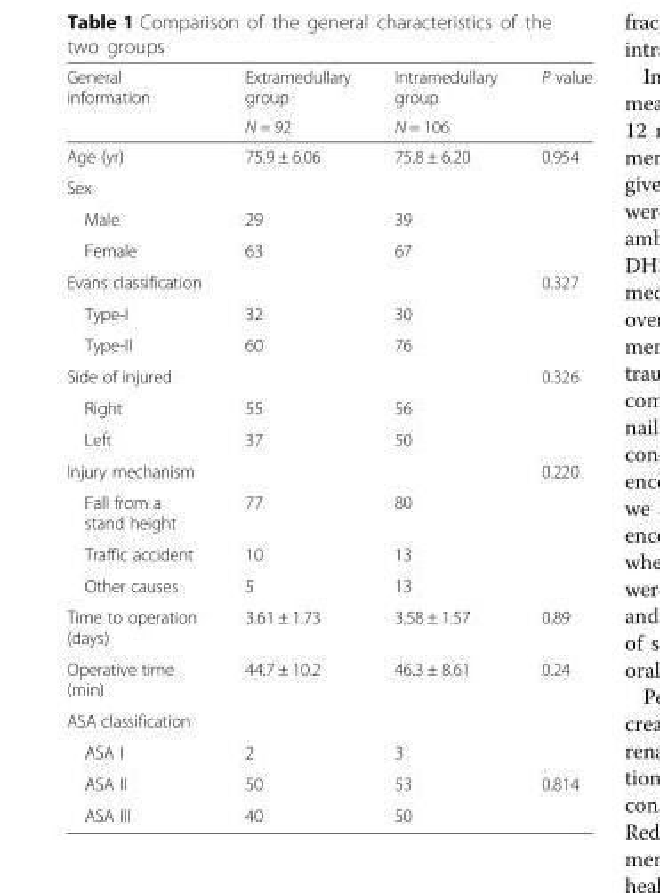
<table><thead><tr><td rowspan="2">General information</td><td rowspan="2">Extramedullary group N = 92</td><td rowspan="2">Intramedullary group N = 106</td><td rowspan="2">P value</td></tr><tr></tr></thead><tbody><tr><td>Age (yr)</td><td>75.9 ± 6.06</td><td>75.8 ± 6.20</td><td>0.954</td></tr><tr><td colspan="4">Sex</td></tr><tr><td>Male</td><td>29</td><td>39</td><td></td></tr><tr><td>Female</td><td>63</td><td>67</td><td></td></tr><tr><td>Evans classification</td><td></td><td></td><td>0.327</td></tr><tr><td>Type-I</td><td>32</td><td>30</td><td></td></tr><tr><td>Type-II</td><td>60</td><td>76</td><td></td></tr><tr><td>Side of injured</td><td></td><td></td><td>0.326</td></tr><tr><td>Right</td><td>55</td><td>56</td><td></td></tr><tr><td>Left</td><td>37</td><td>50</td><td></td></tr><tr><td>Injury mechanism</td><td></td><td></td><td>0.220</td></tr><tr><td>Fall from a stand height</td><td>77</td><td>80</td><td></td></tr><tr><td>Traffic accident</td><td>10</td><td>13</td><td></td></tr><tr><td>Other causes</td><td>5</td><td>13</td><td></td></tr><tr><td>Time to operation (days)</td><td>3.61 ± 1.73</td><td>3.58 ± 1.57</td><td>0.89</td></tr><tr><td>Operative time (min)</td><td>44.7 ± 10.2</td><td>46.3 ± 8.61</td><td>0.24</td></tr><tr><td colspan="4">ASA classification</td></tr><tr><td>ASA I</td><td>2</td><td>3</td><td></td></tr><tr><td>ASA II</td><td>50</td><td>53</td><td>0.814</td></tr><tr><td>ASA III</td><td>40</td><td>50</td><td></td></tr></tbody></table>